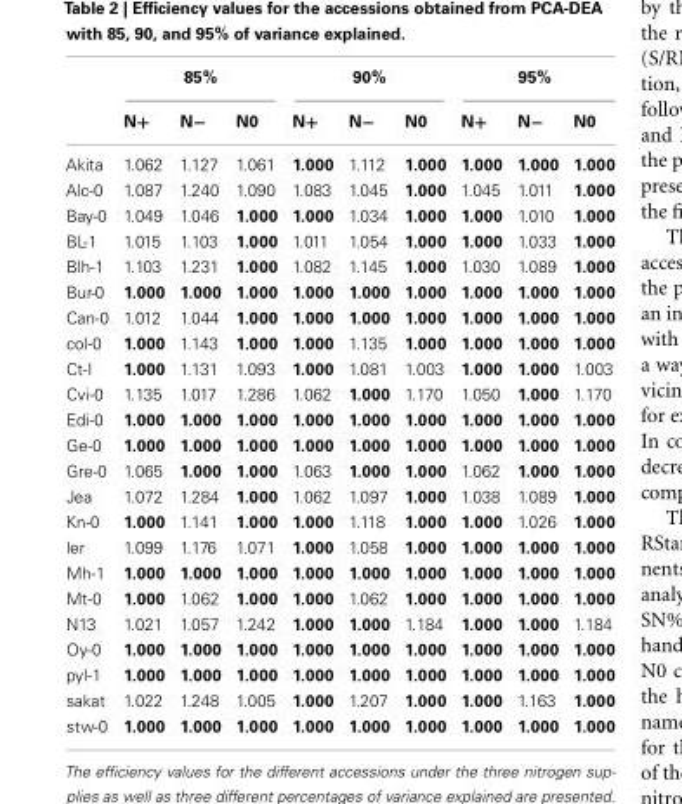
<table><thead><tr><td rowspan="2"></td><td colspan="3">85%</td><td colspan="3">90%</td><td colspan="3">95%</td></tr><tr><td>N+</td><td>N−</td><td>N0</td><td>N+</td><td>N−</td><td>N0</td><td>N+</td><td>N−</td><td>N0</td></tr></thead><tbody><tr><td>Akita</td><td>1.062</td><td>1.127</td><td>1.061</td><td>1.000</td><td>1.112</td><td>1.000</td><td>1.000</td><td>1.000</td><td>1.000</td></tr><tr><td>Alc-0</td><td>1.087</td><td>1.240</td><td>1.090</td><td>1.083</td><td>1.045</td><td>1.000</td><td>1.045</td><td>1.011</td><td>1.000</td></tr><tr><td>Bay-0</td><td>1.049</td><td>1.046</td><td>1.000</td><td>1.000</td><td>1.034</td><td>1.000</td><td>1.000</td><td>1.010</td><td>1.000</td></tr><tr><td>BL-1</td><td>1.015</td><td>1.103</td><td>1.000</td><td>1.011</td><td>1.054</td><td>1.000</td><td>1.000</td><td>1.033</td><td>1.000</td></tr><tr><td>Blh-1</td><td>1.103</td><td>1.231</td><td>1.000</td><td>1.082</td><td>1.145</td><td>1.000</td><td>1.030</td><td>1.089</td><td>1.000</td></tr><tr><td>Bur-0</td><td>1.000</td><td>1.000</td><td>1.000</td><td>1.000</td><td>1.000</td><td>1.000</td><td>1.000</td><td>1.000</td><td>1.000</td></tr><tr><td>Can-0</td><td>1.012</td><td>1.044</td><td>1.000</td><td>1.000</td><td>1.000</td><td>1.000</td><td>1.000</td><td>1.000</td><td>1.000</td></tr><tr><td>col-0</td><td>1.000</td><td>1.143</td><td>1.000</td><td>1.000</td><td>1.135</td><td>1.000</td><td>1.000</td><td>1.000</td><td>1.000</td></tr><tr><td>Ct-I</td><td>1.000</td><td>1.131</td><td>1.093</td><td>1.000</td><td>1.081</td><td>1.003</td><td>1.000</td><td>1.000</td><td>1.003</td></tr><tr><td>Cvi-0</td><td>1.135</td><td>1.017</td><td>1.286</td><td>1.062</td><td>1.000</td><td>1.170</td><td>1.050</td><td>1.000</td><td>1.170</td></tr><tr><td>Edi-0</td><td>1.000</td><td>1.000</td><td>1.000</td><td>1.000</td><td>1.000</td><td>1.000</td><td>1.000</td><td>1.000</td><td>1.000</td></tr><tr><td>Ge-0</td><td>1.000</td><td>1.000</td><td>1.000</td><td>1.000</td><td>1.000</td><td>1.000</td><td>1.000</td><td>1.000</td><td>1.000</td></tr><tr><td>Gre-0</td><td>1.065</td><td>1.000</td><td>1.000</td><td>1.063</td><td>1.000</td><td>1.000</td><td>1.062</td><td>1.000</td><td>1.000</td></tr><tr><td>Jea</td><td>1.072</td><td>1.284</td><td>1.000</td><td>1.062</td><td>1.097</td><td>1.000</td><td>1.038</td><td>1.089</td><td>1.000</td></tr><tr><td>Kn-0</td><td>1.000</td><td>1.141</td><td>1.000</td><td>1.000</td><td>1.118</td><td>1.000</td><td>1.000</td><td>1.026</td><td>1.000</td></tr><tr><td>ler</td><td>1.099</td><td>1.176</td><td>1.071</td><td>1.000</td><td>1.058</td><td>1.000</td><td>1.000</td><td>1.000</td><td>1.000</td></tr><tr><td>Mh-1</td><td>1.000</td><td>1.000</td><td>1.000</td><td>1.000</td><td>1.000</td><td>1.000</td><td>1.000</td><td>1.000</td><td>1.000</td></tr><tr><td>Mt-0</td><td>1.000</td><td>1.062</td><td>1.000</td><td>1.000</td><td>1.062</td><td>1.000</td><td>1.000</td><td>1.000</td><td>1.000</td></tr><tr><td>N13</td><td>1.021</td><td>1.057</td><td>1.242</td><td>1.000</td><td>1.000</td><td>1.184</td><td>1.000</td><td>1.000</td><td>1.184</td></tr><tr><td>Oy-0</td><td>1.000</td><td>1.000</td><td>1.000</td><td>1.000</td><td>1.000</td><td>1.000</td><td>1.000</td><td>1.000</td><td>1.000</td></tr><tr><td>pyl-1</td><td>1.000</td><td>1.000</td><td>1.000</td><td>1.000</td><td>1.000</td><td>1.000</td><td>1.000</td><td>1.000</td><td>1.000</td></tr><tr><td>sakat</td><td>1.022</td><td>1.248</td><td>1.005</td><td>1.000</td><td>1.207</td><td>1.000</td><td>1.000</td><td>1.163</td><td>1.000</td></tr><tr><td>stw-0</td><td>1.000</td><td>1.000</td><td>1.000</td><td>1.000</td><td>1.000</td><td>1.000</td><td>1.000</td><td>1.000</td><td>1.000</td></tr></tbody></table>